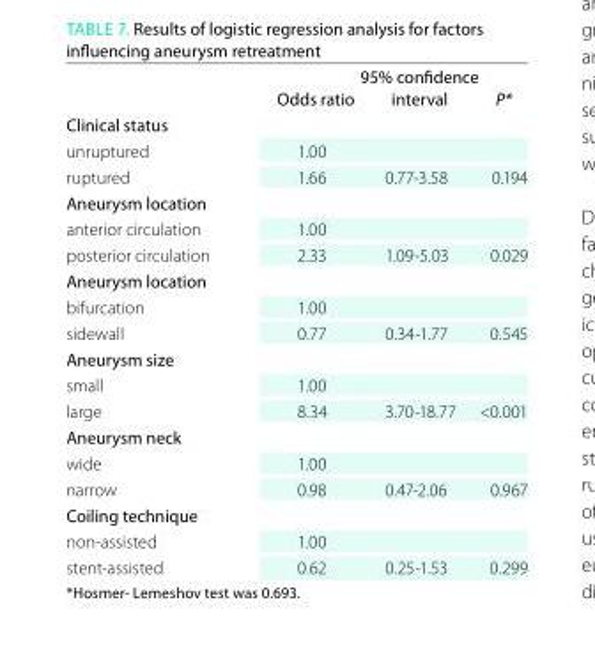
<table><thead><tr><td></td><td>Odds ratio</td><td>95% confidence interval</td><td>P*</td></tr></thead><tbody><tr><td colspan="4">Clinical status</td></tr><tr><td>unruptured</td><td>1.00</td><td></td><td></td></tr><tr><td>ruptured</td><td>1.66</td><td>0.77-3.58</td><td>0.194</td></tr><tr><td colspan="4">aneurysm location</td></tr><tr><td>anterior circulation</td><td>1.00</td><td></td><td></td></tr><tr><td>posterior circulation</td><td>2.33</td><td>1.09-5.03</td><td>0.029</td></tr><tr><td colspan="4">aneurysm location</td></tr><tr><td>bifurcation</td><td>1.00</td><td></td><td></td></tr><tr><td>sidewall</td><td>0.77</td><td>0.34-1.77</td><td>0.545</td></tr><tr><td colspan="4">aneurysm size</td></tr><tr><td>small</td><td>1.00</td><td></td><td></td></tr><tr><td>large</td><td>8.34</td><td>3.70-18.77</td><td>&lt;0.001</td></tr><tr><td colspan="4">aneurysm neck</td></tr><tr><td>wide</td><td>1.00</td><td></td><td></td></tr><tr><td>narrow</td><td>0.98</td><td>0.47-2.06</td><td>0.967</td></tr><tr><td colspan="4">Coiling technique</td></tr><tr><td>non-assisted</td><td>1.00</td><td></td><td></td></tr><tr><td>stent-assisted</td><td>0.62</td><td>0.25-1.53</td><td>0.299</td></tr></tbody></table>